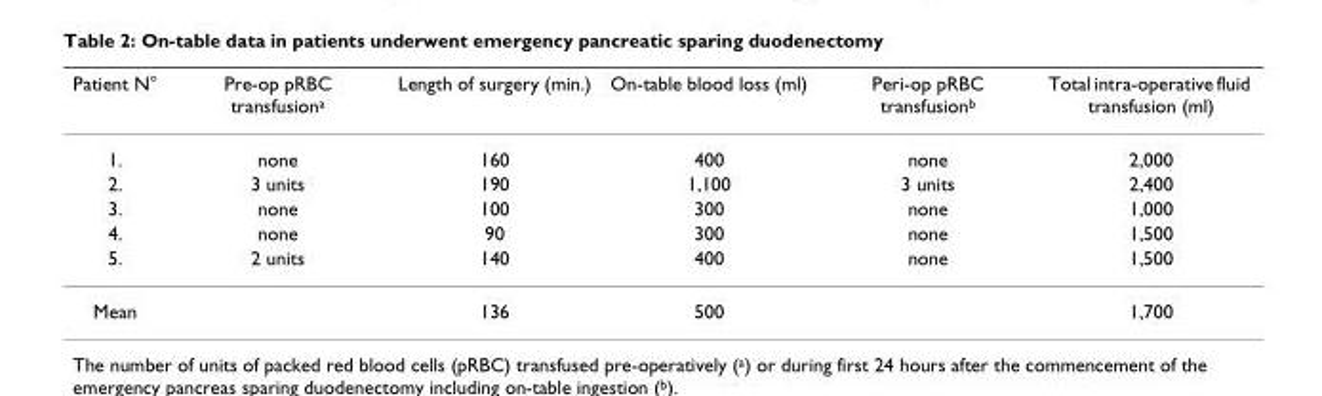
<table><thead><tr><td>Patient N°</td><td>Pre-op pRBC transfusion<sup>a</sup></td><td>Length of surgery (min.)</td><td>On-table blood loss (ml)</td><td>Peri-op pRBC transfusion<sup>b</sup></td><td>Total intra-operative fluid transfusion (ml)</td></tr></thead><tbody><tr><td>1.</td><td>none</td><td>160</td><td>400</td><td>none</td><td>2,000</td></tr><tr><td>2.</td><td>3 units</td><td>190</td><td>1,100</td><td>3 units</td><td>2,400</td></tr><tr><td>3.</td><td>none</td><td>100</td><td>300</td><td>none</td><td>1,000</td></tr><tr><td>4.</td><td>none</td><td>90</td><td>300</td><td>none</td><td>1,500</td></tr><tr><td>5.</td><td>2 units</td><td>140</td><td>400</td><td>none</td><td>1,500</td></tr><tr><td>Mean</td><td></td><td>136</td><td>500</td><td></td><td>1,700</td></tr></tbody></table>